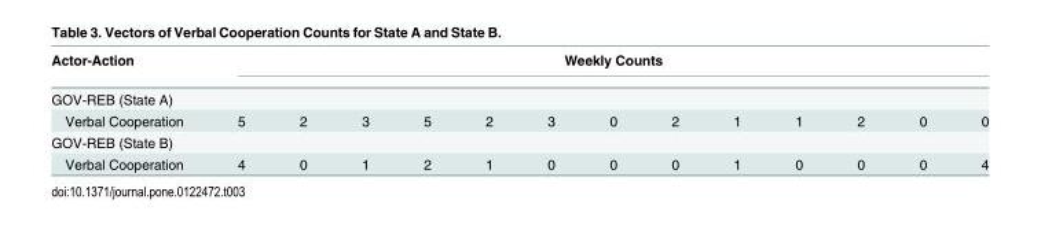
<table><thead><tr><td rowspan="2">Actor-Action GOV-REB (State A)</td><td colspan="13">Weekly Counts</td></tr><tr><td></td><td></td><td></td><td></td><td></td><td></td><td></td><td></td><td></td><td></td><td></td><td></td><td></td></tr></thead><tbody><tr><td>Verbal Cooperation</td><td>5</td><td>2</td><td>3</td><td>5</td><td>2</td><td>3</td><td>0</td><td>2</td><td>1</td><td>1</td><td>2</td><td>0</td><td>0</td></tr><tr><td colspan="14">GOV-REB (State B)</td></tr><tr><td>Verbal Cooperation</td><td>4</td><td>0</td><td>1</td><td>2</td><td>1</td><td>0</td><td>0</td><td>0</td><td>1</td><td>0</td><td>0</td><td>0</td><td>4</td></tr></tbody></table>